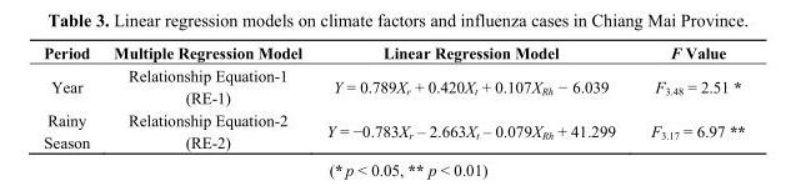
<table><thead><tr><td>Period</td><td>Multiple Regression Model</td><td>Linear Regression Model</td><td>F Value</td></tr></thead><tbody><tr><td>Year</td><td>Relationship Equation-1 (RE-1)</td><td>Y = 0.789X<sub>r</sub> + 0.420X<sub>t</sub> + 0.107X<sub>Rh</sub> − 6.039</td><td>F<sub>3.48</sub> = 2.51 *</td></tr><tr><td>Rainy Season</td><td>Relationship Equation-2 (RE-2)</td><td>Y = −0.783X<sub>r</sub> – 2.663X<sub>t</sub> – 0.079X<sub>Rh</sub> + 41.299</td><td>F<sub>3.17</sub> = 6.97 **</td></tr></tbody></table>